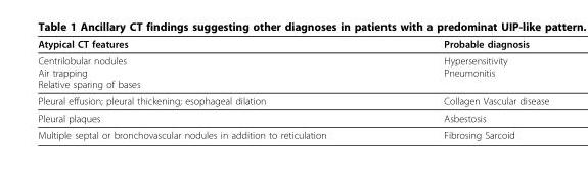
<table><thead><tr><td>Atypical CT features</td><td>Probable diagnosis</td></tr></thead><tbody><tr><td>Centrilobular nodules Air trapping Relative sparing of bases</td><td>Hypersensitivity Pneumonitis</td></tr><tr><td>Pleural effusion; pleural thickening; esophageal dilation</td><td>Collagen Vascular disease</td></tr><tr><td>Pleural plaques</td><td>Asbestosis</td></tr><tr><td>Multiple septal or bronchovascular nodules in addition to reticulation</td><td>Fibrosing Sarcoid</td></tr></tbody></table>